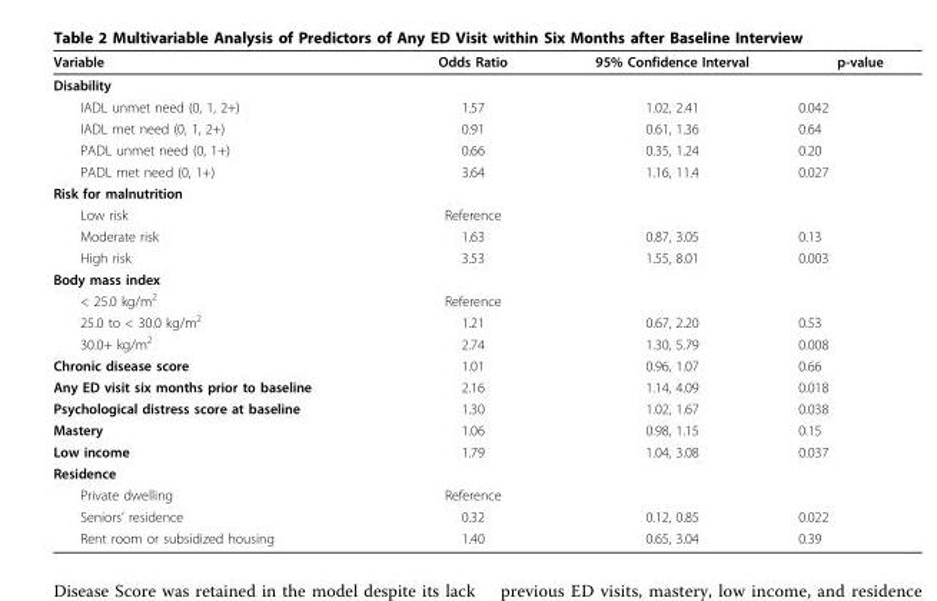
<table><thead><tr><td>Variable</td><td>Odds Ratio</td><td>95% Confidence Interval</td><td>p-value</td></tr></thead><tbody><tr><td colspan="4">Disability</td></tr><tr><td>IADL unmet need (0, 1, 2+)</td><td>1.57</td><td>1.02, 2.41</td><td>0.042</td></tr><tr><td>IADL met need (0, 1, 2+)</td><td>0.91</td><td>0.61, 1.36</td><td>0.64</td></tr><tr><td>PADL unmet need (0, 1+)</td><td>0.66</td><td>0.35, 1.24</td><td>0.20</td></tr><tr><td>PADL met need (0, 1+)</td><td>3.64</td><td>1.16, 11.4</td><td>0.027</td></tr><tr><td colspan="4">Risk for malnutrition</td></tr><tr><td>Low risk</td><td>Reference</td><td></td><td></td></tr><tr><td>Moderate risk</td><td>1.63</td><td>0.87, 3.05</td><td>0.13</td></tr><tr><td>High risk</td><td>3.53</td><td>1.55, 8.01</td><td>0.003</td></tr><tr><td colspan="4">Body mass index</td></tr><tr><td>&lt; 25.0 kg/m<sup>2</sup></td><td>Reference</td><td></td><td></td></tr><tr><td>25.0 to &lt; 30.0 kg/m<sup>2</sup></td><td>1.21</td><td>0.67, 2.20</td><td>0.53</td></tr><tr><td>30.0+ kg/m<sup>2</sup></td><td>2.74</td><td>1.30, 5.79</td><td>0.008</td></tr><tr><td>Chronic disease score</td><td>1.01</td><td>0.96, 1.07</td><td>0.66</td></tr><tr><td>Any ED visit six months prior to baseline</td><td>2.16</td><td>1.14, 4.09</td><td>0.018</td></tr><tr><td>Psychological distress score at baseline</td><td>1.30</td><td>1.02, 1.67</td><td>0.038</td></tr><tr><td>Mastery</td><td>1.06</td><td>0.98, 1.15</td><td>0.15</td></tr><tr><td>Low income</td><td>1.79</td><td>1.04, 3.08</td><td>0.037</td></tr><tr><td colspan="4">Residence</td></tr><tr><td>Private dwelling</td><td>Reference</td><td></td><td></td></tr><tr><td>Seniors’ residence</td><td>0.32</td><td>0.12, 0.85</td><td>0.022</td></tr><tr><td>Rent room or subsidized housing</td><td>1.40</td><td>0.65, 3.04</td><td>0.39</td></tr></tbody></table>